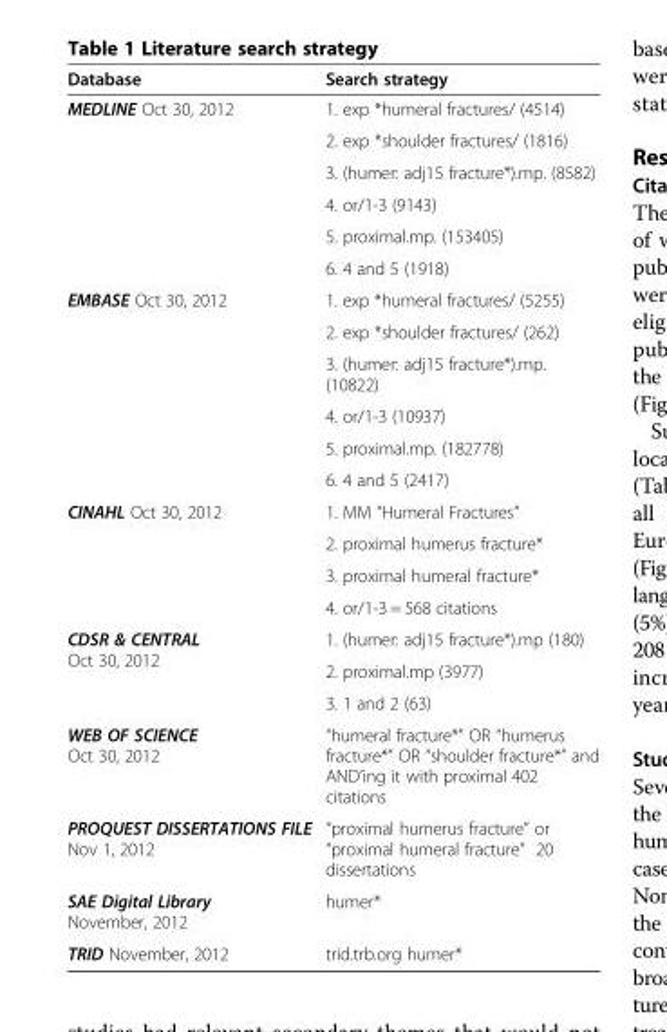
<table><thead><tr><td>Database</td><td>Search strategy</td></tr></thead><tbody><tr><td rowspan="6">MEDLINE Oct 30, 2012</td><td>1. exp *humeral fractures/ (4514)</td></tr><tr><td>2. exp *shoulder fractures/ (1816)</td></tr><tr><td>3. (humer: adj15 fracture*).mp. (8582)</td></tr><tr><td>4. or/1-3 (9143)</td></tr><tr><td>5. proximal.mp. (153405)</td></tr><tr><td>6. 4 and 5 (1918)</td></tr><tr><td rowspan="6">EMBASE Oct 30, 2012</td><td>1. exp *humeral fractures/ (5255)</td></tr><tr><td>2. exp *shoulder fractures/ (262)</td></tr><tr><td>3. (humer: adj15 fracture*).mp. (10822)</td></tr><tr><td>4. or/1-3 (10937)</td></tr><tr><td>5. proximal.mp. (182778)</td></tr><tr><td>6. 4 and 5 (2417)</td></tr><tr><td rowspan="4">CINAHL Oct 30, 2012</td><td>1. MM “Humeral Fractures”</td></tr><tr><td>2. proximal humerus fracture*</td></tr><tr><td>3. proximal humeral fracture*</td></tr><tr><td>4. or/1-3 = 568 citations</td></tr><tr><td rowspan="3">CDSR &amp; CENTRAL Oct 30, 2012</td><td>1. (humer: adj15 fracture*).mp (180)</td></tr><tr><td>2. proximal.mp (3977)</td></tr><tr><td>3. 1 and 2 (63)</td></tr><tr><td>WEB OF SCIENCE Oct 30, 2012</td><td>“humeral fracture*” OR “humerus fracture*” OR “shoulder fracture*” and AND’ing it with proximal 402 citations</td></tr><tr><td>PROQUEST DISSERTATIONS FILE Nov 1, 2012</td><td>“proximal humerus fracture” or “proximal humeral fracture” 20 dissertations</td></tr><tr><td>SAE Digital Library November, 2012</td><td>humer*</td></tr><tr><td>TRID November, 2012</td><td>trid.trb.org humer*</td></tr></tbody></table>